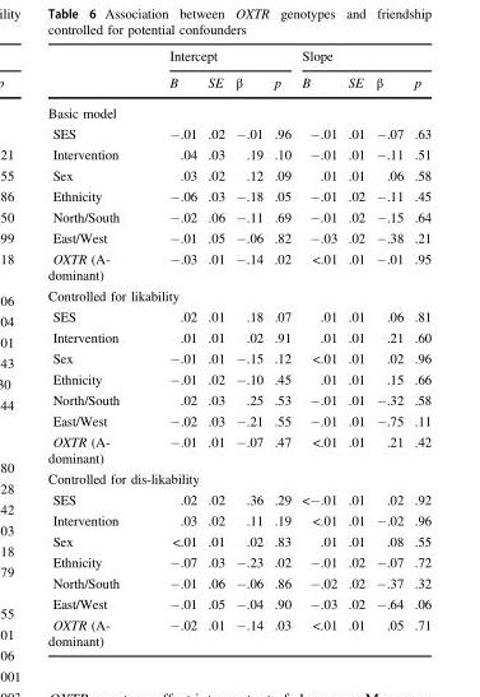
<table><thead><tr><td rowspan="2"></td><td colspan="4">Intercept</td><td colspan="4">Slope</td></tr><tr><td>B</td><td>SE</td><td>β</td><td>p</td><td>B</td><td>SE</td><td>β</td><td>p</td></tr></thead><tbody><tr><td colspan="9">Basic model</td></tr><tr><td>SES</td><td>−.01</td><td>.02</td><td>−.01</td><td>.96</td><td>−.01</td><td>.01</td><td>−.07</td><td>.63</td></tr><tr><td>Intervention</td><td>.04</td><td>.03</td><td>.19</td><td>.10</td><td>−.01</td><td>.01</td><td>−.11</td><td>.51</td></tr><tr><td>Sex</td><td>.03</td><td>.02</td><td>.12</td><td>.09</td><td>.01</td><td>.01</td><td>.06</td><td>.58</td></tr><tr><td>Ethnicity</td><td>−.06</td><td>.03</td><td>−.18</td><td>.05</td><td>−.01</td><td>.02</td><td>−.11</td><td>.45</td></tr><tr><td>North/South</td><td>−.02</td><td>.06</td><td>−.11</td><td>.69</td><td>−.01</td><td>.02</td><td>−.15</td><td>.64</td></tr><tr><td>East/West</td><td>−.01</td><td>.05</td><td>−.06</td><td>.82</td><td>−.03</td><td>.02</td><td>−.38</td><td>.21</td></tr><tr><td>OXTR (A- dominant)</td><td>−.03</td><td>.01</td><td>−.14</td><td>.02</td><td>&lt;.01</td><td>.01</td><td>−.01</td><td>.95</td></tr><tr><td colspan="9">Controlled for likability</td></tr><tr><td>SES</td><td>.02</td><td>.01</td><td>.18</td><td>.07</td><td>.01</td><td>.01</td><td>.06</td><td>.81</td></tr><tr><td>Intervention</td><td>.01</td><td>.01</td><td>.02</td><td>.91</td><td>.01</td><td>.01</td><td>.21</td><td>.60</td></tr><tr><td>Sex</td><td>−.01</td><td>.01</td><td>−.15</td><td>.12</td><td>&lt;.01</td><td>.01</td><td>.02</td><td>.96</td></tr><tr><td>Ethnicity</td><td>−.01</td><td>.02</td><td>−.10</td><td>.45</td><td>.01</td><td>.01</td><td>.15</td><td>.66</td></tr><tr><td>North/South</td><td>.02</td><td>.03</td><td>.25</td><td>.53</td><td>−.01</td><td>.01</td><td>−.32</td><td>.58</td></tr><tr><td>East/West</td><td>−.02</td><td>.03</td><td>−.21</td><td>.55</td><td>−.01</td><td>.01</td><td>−.75</td><td>.11</td></tr><tr><td>OXTR (A- dominant)</td><td>−.01</td><td>.01</td><td>−.07</td><td>.47</td><td>&lt;.01</td><td>.01</td><td>.21</td><td>.42</td></tr><tr><td colspan="9">Controlled for dis-likability</td></tr><tr><td>SES</td><td>.02</td><td>.02</td><td>.36</td><td>.29</td><td>&lt;−.01</td><td>.01</td><td>.02</td><td>.92</td></tr><tr><td>Intervention</td><td>.03</td><td>.02</td><td>.11</td><td>.19</td><td>&lt;.01</td><td>.01</td><td>−.02</td><td>.96</td></tr><tr><td>Sex</td><td>&lt;.01</td><td>.01</td><td>.02</td><td>.83</td><td>.01</td><td>.01</td><td>.08</td><td>.55</td></tr><tr><td>Ethnicity</td><td>−.07</td><td>.03</td><td>−.23</td><td>.02</td><td>−.01</td><td>.02</td><td>−.07</td><td>.72</td></tr><tr><td>North/South</td><td>−.01</td><td>.06</td><td>−.06</td><td>.86</td><td>−.02</td><td>.02</td><td>−.37</td><td>.32</td></tr><tr><td>East/West</td><td>−.01</td><td>.05</td><td>−.04</td><td>.90</td><td>−.03</td><td>.02</td><td>−.64</td><td>.06</td></tr><tr><td>OXTR (A- dominant)</td><td>−.02</td><td>.01</td><td>−.14</td><td>.03</td><td>&lt;.01</td><td>.01</td><td>.05</td><td>.71</td></tr></tbody></table>